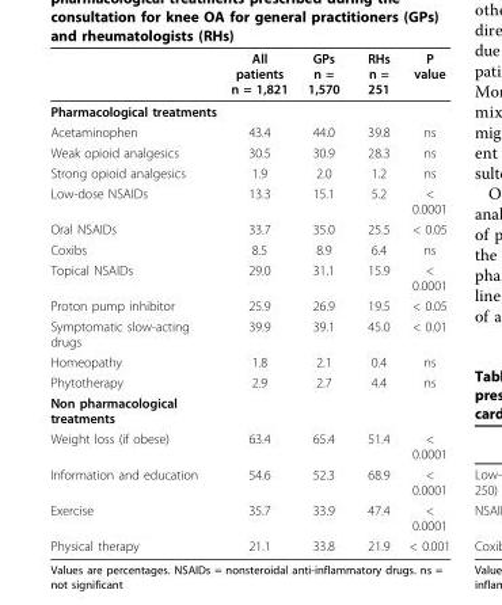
<table><thead><tr><td></td><td>All patients n = 1,821</td><td>GPs n = 1,570</td><td>RHs n = 251</td><td>P value</td></tr></thead><tbody><tr><td colspan="5">Pharmacological treatments</td></tr><tr><td>Acetaminophen</td><td>43.4</td><td>44.0</td><td>39.8</td><td>ns</td></tr><tr><td>Weak opioid analgesics</td><td>30.5</td><td>30.9</td><td>28.3</td><td>ns</td></tr><tr><td>Strong opioid analgesics</td><td>1.9</td><td>2.0</td><td>1.2</td><td>ns</td></tr><tr><td>Low-dose NSAIDs</td><td>13.3</td><td>15.1</td><td>5.2</td><td>&lt; 0.0001</td></tr><tr><td>Oral NSAIDs</td><td>33.7</td><td>35.0</td><td>25.5</td><td>&lt; 0.05</td></tr><tr><td>Coxibs</td><td>8.5</td><td>8.9</td><td>6.4</td><td>ns</td></tr><tr><td>Topical NSAIDs</td><td>29.0</td><td>31.1</td><td>15.9</td><td>&lt; 0.0001</td></tr><tr><td>Proton pump inhibitor</td><td>25.9</td><td>26.9</td><td>19.5</td><td>&lt; 0.05</td></tr><tr><td>Symptomatic slow-acting drugs</td><td>39.9</td><td>39.1</td><td>45.0</td><td>&lt; 0.01</td></tr><tr><td>Homeopathy</td><td>1.8</td><td>2.1</td><td>0.4</td><td>ns</td></tr><tr><td>Phytotherapy</td><td>2.9</td><td>2.7</td><td>4.4</td><td>ns</td></tr><tr><td colspan="5">Non pharmacological treatments</td></tr><tr><td>Weight loss (if obese)</td><td>63.4</td><td>65.4</td><td>51.4</td><td>&lt; 0.0001</td></tr><tr><td>Information and education</td><td>54.6</td><td>52.3</td><td>68.9</td><td>&lt; 0.0001</td></tr><tr><td>Exercise</td><td>35.7</td><td>33.9</td><td>47.4</td><td>&lt; 0.0001</td></tr><tr><td>Physical therapy</td><td>21.1</td><td>33.8</td><td>21.9</td><td>&lt; 0.001</td></tr></tbody></table>